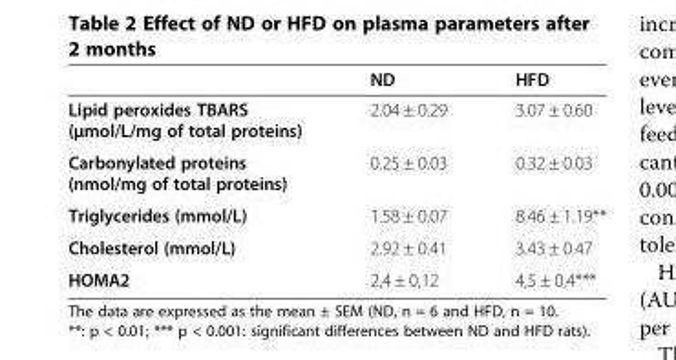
<table><thead><tr><td></td><td>ND</td><td>HFD</td></tr></thead><tbody><tr><td>Lipid peroxides TBARS (μmol/L/mg of total proteins)</td><td>2.04 ± 0.29</td><td>3.07 ± 0.60</td></tr><tr><td>Carbonylated proteins (nmol/mg of total proteins)</td><td>0.25 ± 0.03</td><td>0.32 ± 0.03</td></tr><tr><td>Triglycerides (mmol/L)</td><td>1.58 ± 0.07</td><td>8.46 ± 1.19**</td></tr><tr><td>Cholesterol (mmol/L)</td><td>2.92 ± 0.41</td><td>3.43 ± 0.47</td></tr><tr><td>HOMA2</td><td>2,4 ± 0,12</td><td>4,5 ± 0,4***</td></tr></tbody></table>